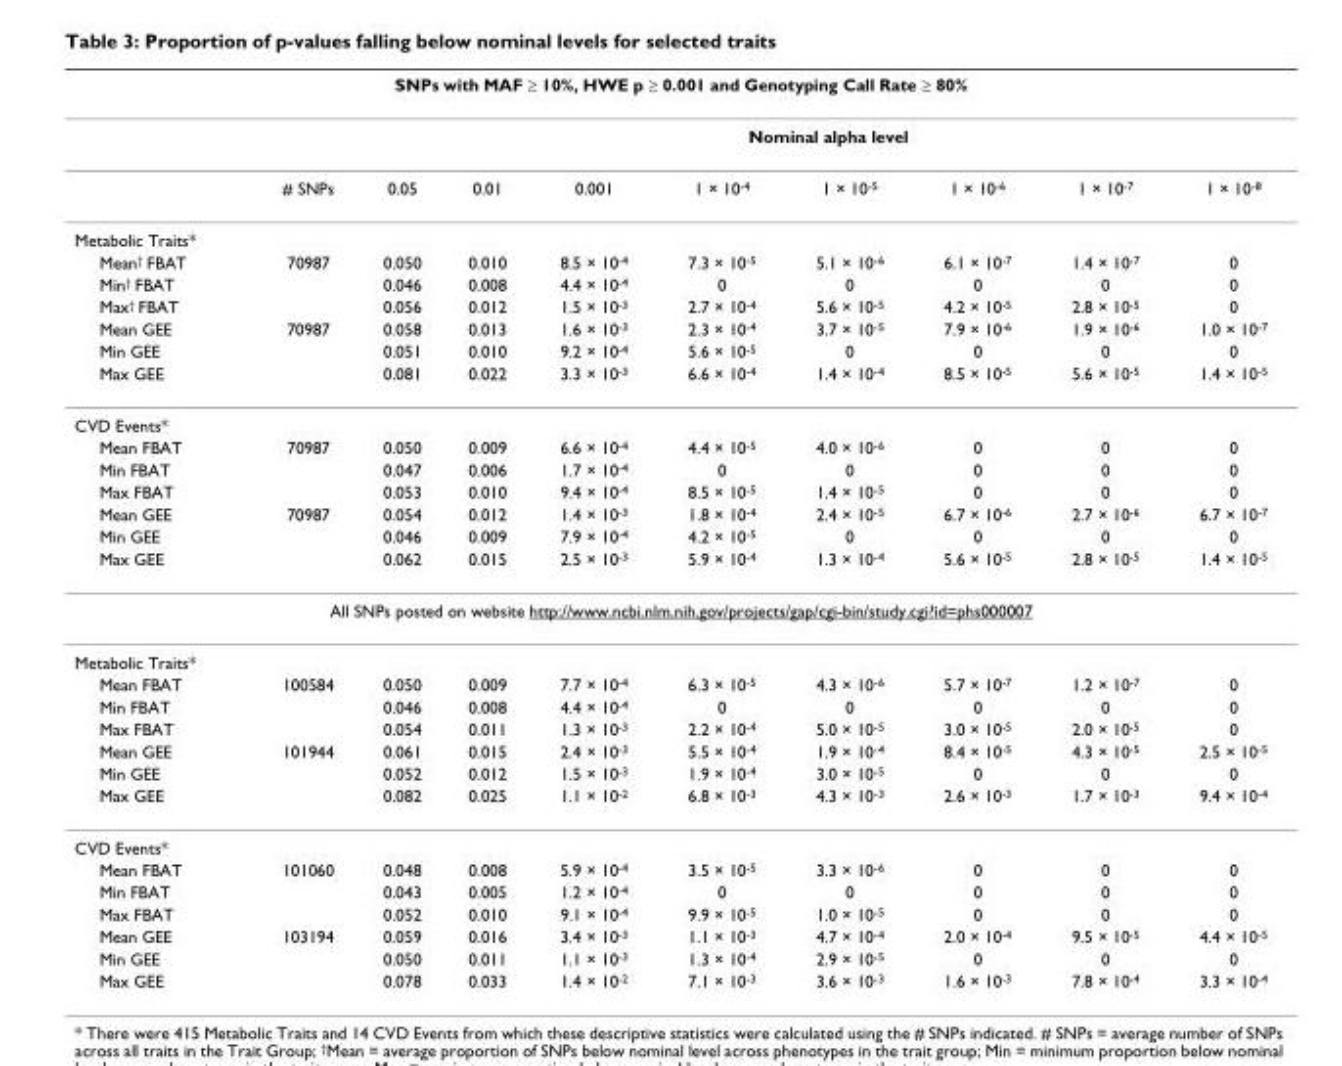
<table><thead><tr><td colspan="10">SNPs with MAF ≥ 10%, HWE p ≥ 0.001 and Genotyping Call Rate ≥ 80%</td></tr><tr><td rowspan="2"></td><td rowspan="2"># SNPs</td><td colspan="8">Nominal alpha level</td></tr><tr><td>0.05</td><td>0.01</td><td>0.001</td><td>1 × 10<sup>-4</sup></td><td>1 × 10<sup>-5</sup></td><td>1 × 10<sup>-6</sup></td><td>1 × 10<sup>-7</sup></td><td>1 × 10<sup>-8</sup></td></tr></thead><tbody><tr><td colspan="10">Metabolic Traits*</td></tr><tr><td>Mean<sup>†</sup> FBAT</td><td>70987</td><td>0.050</td><td>0.010</td><td>8.5 × 10<sup>-4</sup></td><td>7.3 × 10<sup>-5</sup></td><td>5.1 × 10<sup>-6</sup></td><td>6.1 × 10<sup>-7</sup></td><td>1.4 × 10<sup>-7</sup></td><td>0</td></tr><tr><td>Min<sup>†</sup> FBAT</td><td></td><td>0.046</td><td>0.008</td><td>4.4 × 10<sup>-4</sup></td><td>0</td><td>0</td><td>0</td><td>0</td><td>0</td></tr><tr><td>Max<sup>†</sup> FBAT</td><td></td><td>0.056</td><td>0.012</td><td>1.5 × 10<sup>-3</sup></td><td>2.7 × 10<sup>-4</sup></td><td>5.6 × 10<sup>-5</sup></td><td>4.2 × 10<sup>-5</sup></td><td>2.8 × 10<sup>-5</sup></td><td>0</td></tr><tr><td>Mean GEE</td><td>70987</td><td>0.058</td><td>0.013</td><td>1.6 × 10<sup>-3</sup></td><td>2.3 × 10<sup>-4</sup></td><td>3.7 × 10<sup>-5</sup></td><td>7.9 × 10<sup>-6</sup></td><td>1.9 × 10<sup>-6</sup></td><td>1.0 × 10<sup>-7</sup></td></tr><tr><td>Min GEE</td><td></td><td>0.051</td><td>0.010</td><td>9.2 × 10<sup>-4</sup></td><td>5.6 × 10<sup>-5</sup></td><td>0</td><td>0</td><td>0</td><td>0</td></tr><tr><td>Max GEE</td><td></td><td>0.081</td><td>0.022</td><td>3.3 × 10<sup>-3</sup></td><td>6.6 × 10<sup>-4</sup></td><td>1.4 × 10<sup>-4</sup></td><td>8.5 × 10<sup>-5</sup></td><td>5.6 × 10<sup>-5</sup></td><td>1.4 × 10<sup>-5</sup></td></tr><tr><td colspan="10">CVD Events*</td></tr><tr><td>Mean FBAT</td><td>70987</td><td>0.050</td><td>0.009</td><td>6.6 × 10<sup>-4</sup></td><td>4.4 × 10<sup>-5</sup></td><td>4.0 × 10<sup>-6</sup></td><td>0</td><td>0</td><td>0</td></tr><tr><td>Min FBAT</td><td></td><td>0.047</td><td>0.006</td><td>1.7 × 10<sup>-4</sup></td><td>0</td><td>0</td><td>0</td><td>0</td><td>0</td></tr><tr><td>Max FBAT</td><td></td><td>0.053</td><td>0.010</td><td>9.4 × 10<sup>-4</sup></td><td>8.5 × 10<sup>-5</sup></td><td>1.4 × 10<sup>-5</sup></td><td>0</td><td>0</td><td>0</td></tr><tr><td>Mean GEE</td><td>70987</td><td>0.054</td><td>0.012</td><td>1.4 × 10<sup>-3</sup></td><td>1.8 × 10<sup>-4</sup></td><td>2.4 × 10<sup>-5</sup></td><td>6.7 × 10<sup>-6</sup></td><td>2.7 × 10<sup>-6</sup></td><td>6.7 × 10<sup>-7</sup></td></tr><tr><td>Min GEE</td><td></td><td>0.046</td><td>0.009</td><td>7.9 × 10<sup>-4</sup></td><td>4.2 × 10<sup>-5</sup></td><td>0</td><td>0</td><td>0</td><td>0</td></tr><tr><td>Max GEE</td><td></td><td>0.062</td><td>0.015</td><td>2.5 × 10<sup>-3</sup></td><td>5.9 × 10<sup>-4</sup></td><td>1.3 × 10<sup>-4</sup></td><td>5.6 × 10<sup>-5</sup></td><td>2.8 × 10<sup>-5</sup></td><td>1.4 × 10<sup>-5</sup></td></tr><tr><td colspan="10">All SNPs posted on website http://www.ncbi.nlm.nih.gov/projects/gap/cgi-bin/study.cgi?id=phs000007</td></tr><tr><td colspan="10">Metabolic Traits*</td></tr><tr><td>Mean FBAT</td><td>100584</td><td>0.050</td><td>0.009</td><td>7.7 × 10<sup>-4</sup></td><td>6.3 × 10<sup>-5</sup></td><td>4.3 × 10<sup>-6</sup></td><td>5.7 × 10<sup>-7</sup></td><td>1.2 × 10<sup>-7</sup></td><td>0</td></tr><tr><td>Min FBAT</td><td></td><td>0.046</td><td>0.008</td><td>4.4 × 10<sup>-4</sup></td><td>0</td><td>0</td><td>0</td><td>0</td><td>0</td></tr><tr><td>Max FBAT</td><td></td><td>0.054</td><td>0.011</td><td>1.3 × 10<sup>-3</sup></td><td>2.2 × 10<sup>-4</sup></td><td>5.0 × 10<sup>-5</sup></td><td>3.0 × 10<sup>-5</sup></td><td>2.0 × 10<sup>-5</sup></td><td>0</td></tr><tr><td>Mean GEE</td><td>101944</td><td>0.061</td><td>0.015</td><td>2.4 × 10<sup>-3</sup></td><td>5.5 × 10<sup>-4</sup></td><td>1.9 × 10<sup>-4</sup></td><td>8.4 × 10<sup>-5</sup></td><td>4.3 × 10<sup>-5</sup></td><td>2.5 × 10<sup>-5</sup></td></tr><tr><td>Min GEE</td><td></td><td>0.052</td><td>0.012</td><td>1.5 × 10<sup>-3</sup></td><td>1.9 × 10<sup>-4</sup></td><td>3.0 × 10<sup>-5</sup></td><td>0</td><td>0</td><td>0</td></tr><tr><td>Max GEE</td><td></td><td>0.082</td><td>0.025</td><td>1.1 × 10<sup>-2</sup></td><td>6.8 × 10<sup>-3</sup></td><td>4.3 × 10<sup>-3</sup></td><td>2.6 × 10<sup>-3</sup></td><td>1.7 × 10<sup>-3</sup></td><td>9.4 × 10<sup>-4</sup></td></tr><tr><td colspan="10">CVD Events*</td></tr><tr><td>Mean FBAT</td><td>101060</td><td>0.048</td><td>0.008</td><td>5.9 × 10<sup>-4</sup></td><td>3.5 × 10<sup>-5</sup></td><td>3.3 × 10<sup>-6</sup></td><td>0</td><td>0</td><td>0</td></tr><tr><td>Min FBAT</td><td></td><td>0.043</td><td>0.005</td><td>1.2 × 10<sup>-4</sup></td><td>0</td><td>0</td><td>0</td><td>0</td><td>0</td></tr><tr><td>Max FBAT</td><td></td><td>0.052</td><td>0.010</td><td>9.1 × 10<sup>-4</sup></td><td>9.9 × 10<sup>-5</sup></td><td>1.0 × 10<sup>-5</sup></td><td>0</td><td>0</td><td>0</td></tr><tr><td>Mean GEE</td><td>103194</td><td>0.059</td><td>0.016</td><td>3.4 × 10<sup>-3</sup></td><td>1.1 × 10<sup>-3</sup></td><td>4.7 × 10<sup>-4</sup></td><td>2.0 × 10<sup>-4</sup></td><td>9.5 × 10<sup>-5</sup></td><td>4.4 × 10<sup>-5</sup></td></tr><tr><td>Min GEE</td><td></td><td>0.050</td><td>0.011</td><td>1.1 × 10<sup>-3</sup></td><td>1.3 × 10<sup>-4</sup></td><td>2.9 × 10<sup>-5</sup></td><td>0</td><td>0</td><td>0</td></tr><tr><td>Max GEE</td><td></td><td>0.078</td><td>0.033</td><td>1.4 × 10<sup>-2</sup></td><td>7.1 × 10<sup>-3</sup></td><td>3.6 × 10<sup>-3</sup></td><td>1.6 × 10<sup>-3</sup></td><td>7.8 × 10<sup>-4</sup></td><td>3.3 × 10<sup>-4</sup></td></tr></tbody></table>